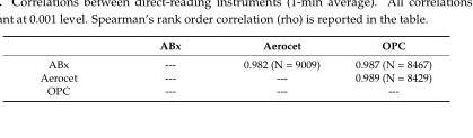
<table><thead><tr><td></td><td>ABx</td><td>Aerocet</td><td>OPC</td></tr></thead><tbody><tr><td>ABx</td><td>---</td><td>0.982 (N = 9009)</td><td>0.987 (N = 8467)</td></tr><tr><td>Aerocet</td><td>---</td><td>---</td><td>0.989 (N = 8429)</td></tr><tr><td>OPC</td><td>---</td><td>---</td><td>---</td></tr></tbody></table>